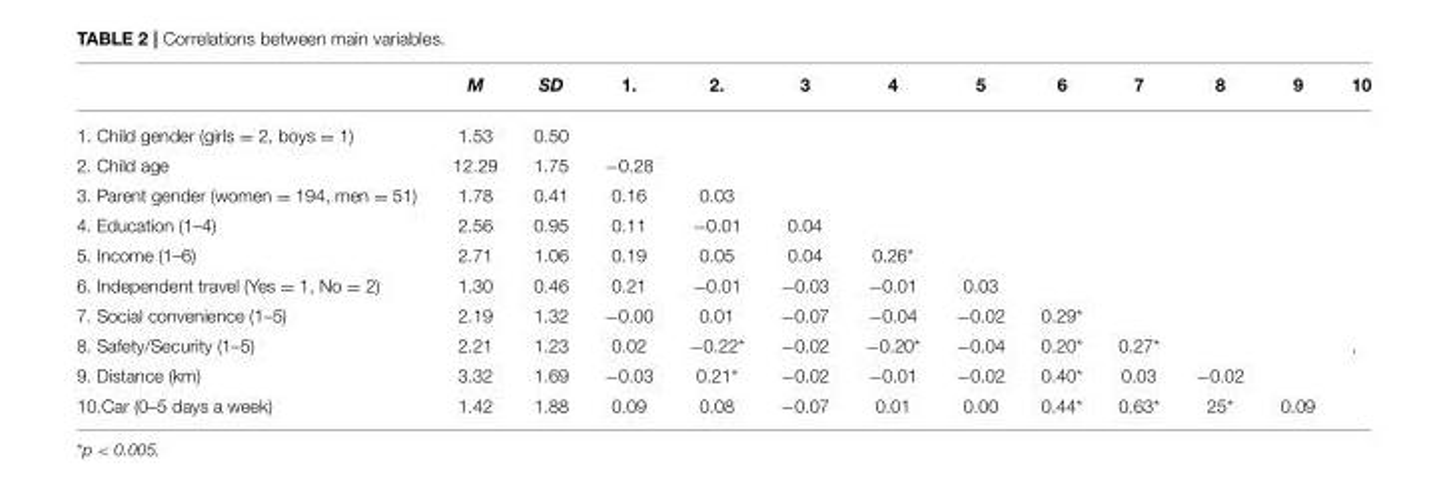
<table><thead><tr><td></td><td>M</td><td>SD</td><td>1.</td><td>2.</td><td>3</td><td>4</td><td>5</td><td>6</td><td>7</td><td>8</td><td>9</td><td>10</td></tr></thead><tbody><tr><td>1. Child gender (girls = 2, boys = 1)</td><td>1.53</td><td>0.50</td><td></td><td></td><td></td><td></td><td></td><td></td><td></td><td></td><td></td><td></td></tr><tr><td>2. Child age</td><td>12.29</td><td>1.75</td><td>−0.28</td><td></td><td></td><td></td><td></td><td></td><td></td><td></td><td></td><td></td></tr><tr><td>3. Parent gender (women = 194, men = 51)</td><td>1.78</td><td>0.41</td><td>0.16</td><td>0.03</td><td></td><td></td><td></td><td></td><td></td><td></td><td></td><td></td></tr><tr><td>4. Education (1–4)</td><td>2.56</td><td>0.95</td><td>0.11</td><td>−0.01</td><td>0.04</td><td></td><td></td><td></td><td></td><td></td><td></td><td></td></tr><tr><td>5. Income (1–6)</td><td>2.71</td><td>1.06</td><td>0.19</td><td>0.05</td><td>0.04</td><td>0.26*</td><td></td><td></td><td></td><td></td><td></td><td></td></tr><tr><td>6. Independent travel (Yes = 1, No = 2)</td><td>1.30</td><td>0.46</td><td>0.21</td><td>−0.01</td><td>−0.03</td><td>−0.01</td><td>0.03</td><td></td><td></td><td></td><td></td><td></td></tr><tr><td>7. Social convenience (1–5)</td><td>2.19</td><td>1.32</td><td>−0.00</td><td>0.01</td><td>−0.07</td><td>−0.04</td><td>−0.02</td><td>0.29*</td><td></td><td></td><td></td><td></td></tr><tr><td>8. Safety/Security (1–5)</td><td>2.21</td><td>1.23</td><td>0.02</td><td>−0.22*</td><td>−0.02</td><td>−0.20*</td><td>−0.04</td><td>0.20*</td><td>0.27*</td><td></td><td></td><td>.</td></tr><tr><td>9. Distance (km)</td><td>3.32</td><td>1.69</td><td>−0.03</td><td>0.21*</td><td>−0.02</td><td>−0.01</td><td>−0.02</td><td>0.40*</td><td>0.03</td><td>−0.02</td><td></td><td></td></tr><tr><td>10.Car (0–5 days a week)</td><td>1.42</td><td>1.88</td><td>0.09</td><td>0.08</td><td>−0.07</td><td>0.01</td><td>0.00</td><td>0.44*</td><td>0.63*</td><td>25*</td><td>0.09</td><td></td></tr></tbody></table>